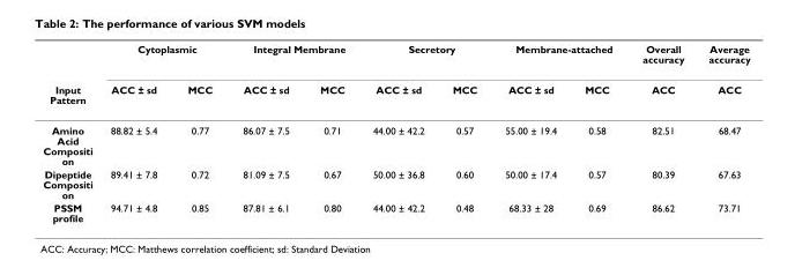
<table><thead><tr><td rowspan="2">Input Pattern</td><td colspan="2">Cytoplasmic</td><td colspan="2">Integral Membrane</td><td colspan="2">Secretory</td><td colspan="2">Membrane-attached</td><td rowspan="2">Overall accuracy ACC</td><td rowspan="2">Average accuracy ACC</td></tr><tr><td>ACC ± sd</td><td>MCC</td><td>ACC ± sd</td><td>MCC</td><td>ACC ± sd</td><td>MCC</td><td>ACC ± sd</td><td>MCC</td></tr></thead><tbody><tr><td>Amino Acid Compositi on</td><td>88.82 ± 5.4</td><td>0.77</td><td>86.07 ± 7.5</td><td>0.71</td><td>44.00 ± 42.2</td><td>0.57</td><td>55.00 ± 19.4</td><td>0.58</td><td>82.51</td><td>68.47</td></tr><tr><td>Dipeptide Compositi on</td><td>89.41 ± 7.8</td><td>0.72</td><td>81.09 ± 7.5</td><td>0.67</td><td>50.00 ± 36.8</td><td>0.60</td><td>50.00 ± 17.4</td><td>0.57</td><td>80.39</td><td>67.63</td></tr><tr><td>PSSM profile</td><td>94.71 ± 4.8</td><td>0.85</td><td>87.81 ± 6.1</td><td>0.80</td><td>44.00 ± 42.2</td><td>0.48</td><td>68.33 ± 28</td><td>0.69</td><td>86.62</td><td>73.71</td></tr></tbody></table>